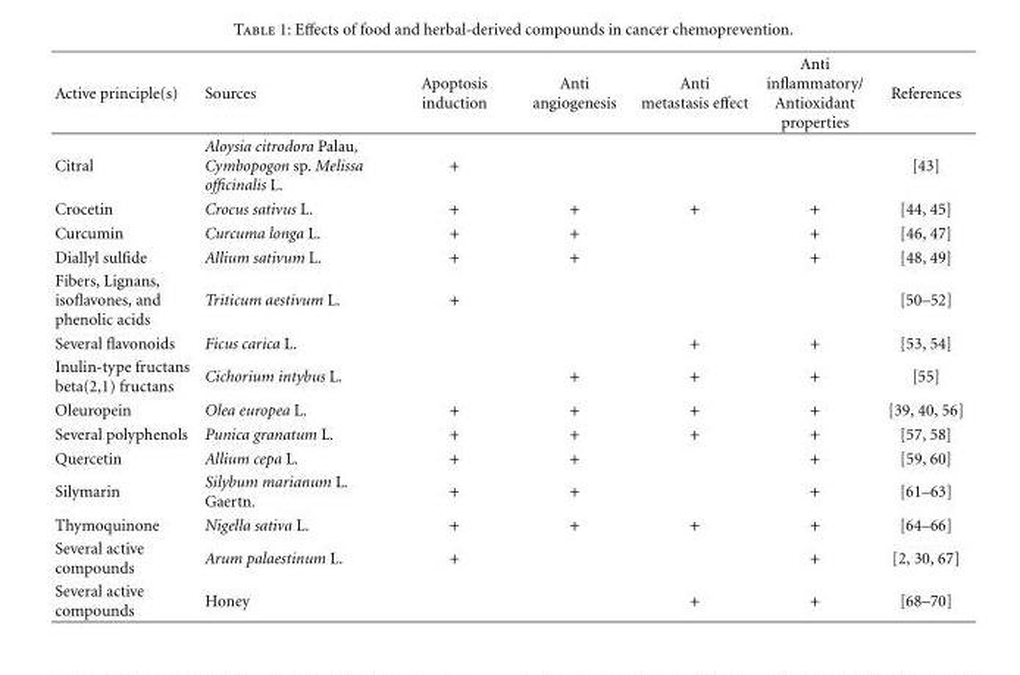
<table><thead><tr><td>Active principle(s)</td><td>Sources</td><td>Apoptosis induction</td><td>Anti angiogenesis</td><td>Anti metastasis effect</td><td>Anti inflammatory/ Antioxidant properties</td><td>References</td></tr></thead><tbody><tr><td>Citral</td><td>Aloysia citrodora Palau, Cymbopogon sp. Melissa officinalis L.</td><td>+</td><td></td><td></td><td></td><td>[43]</td></tr><tr><td>Crocetin</td><td>Crocus sativus L.</td><td>+</td><td>+</td><td>+</td><td>+</td><td>[44, 45]</td></tr><tr><td>Curcumin</td><td>Curcuma longa L.</td><td>+</td><td>+</td><td></td><td>+</td><td>[46, 47]</td></tr><tr><td>Diallyl sulfide</td><td>Allium sativum L.</td><td>+</td><td>+</td><td></td><td>+</td><td>[48, 49]</td></tr><tr><td>Fibers, Lignans, isoflavones, and phenolic acids</td><td>Triticum aestivum L.</td><td>+</td><td></td><td></td><td></td><td>[50–52]</td></tr><tr><td>Several flavonoids</td><td>Ficus carica L.</td><td></td><td></td><td>+</td><td>+</td><td>[53, 54]</td></tr><tr><td>Inulin-type fructans beta(2,1) fructans</td><td>Cichorium intybus L.</td><td></td><td>+</td><td>+</td><td>+</td><td>[55]</td></tr><tr><td>Oleuropein</td><td>Olea europea L.</td><td>+</td><td>+</td><td>+</td><td>+</td><td>[39, 40, 56]</td></tr><tr><td>Several polyphenols</td><td>Punica granatum L.</td><td>+</td><td>+</td><td>+</td><td>+</td><td>[57, 58]</td></tr><tr><td>Quercetin</td><td>Allium cepa L.</td><td>+</td><td>+</td><td></td><td>+</td><td>[59, 60]</td></tr><tr><td>Silymarin</td><td>Silybum marianum L. Gaertn.</td><td>+</td><td>+</td><td></td><td>+</td><td>[61–63]</td></tr><tr><td>Thymoquinone</td><td>Nigella sativa L.</td><td>+</td><td>+</td><td>+</td><td>+</td><td>[64–66]</td></tr><tr><td>Several active compounds</td><td>Arum palaestinum L.</td><td>+</td><td></td><td></td><td>+</td><td>[2, 30, 67]</td></tr><tr><td>Several active compounds</td><td>Honey</td><td></td><td></td><td>+</td><td>+</td><td>[68–70]</td></tr></tbody></table>